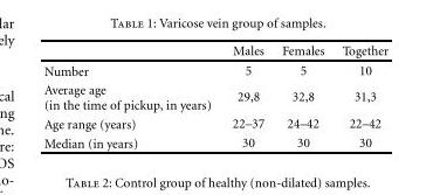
<table><thead><tr><td></td><td>Males</td><td>Females</td><td>Together</td></tr></thead><tbody><tr><td>Number</td><td>5</td><td>5</td><td>10</td></tr><tr><td>Average age (in the time of pickup, in years)</td><td>29,8</td><td>32,8</td><td>31,3</td></tr><tr><td>Age range (years)</td><td>22–37</td><td>24–42</td><td>22–42</td></tr><tr><td>Median (in years)</td><td>30</td><td>30</td><td>30</td></tr></tbody></table>